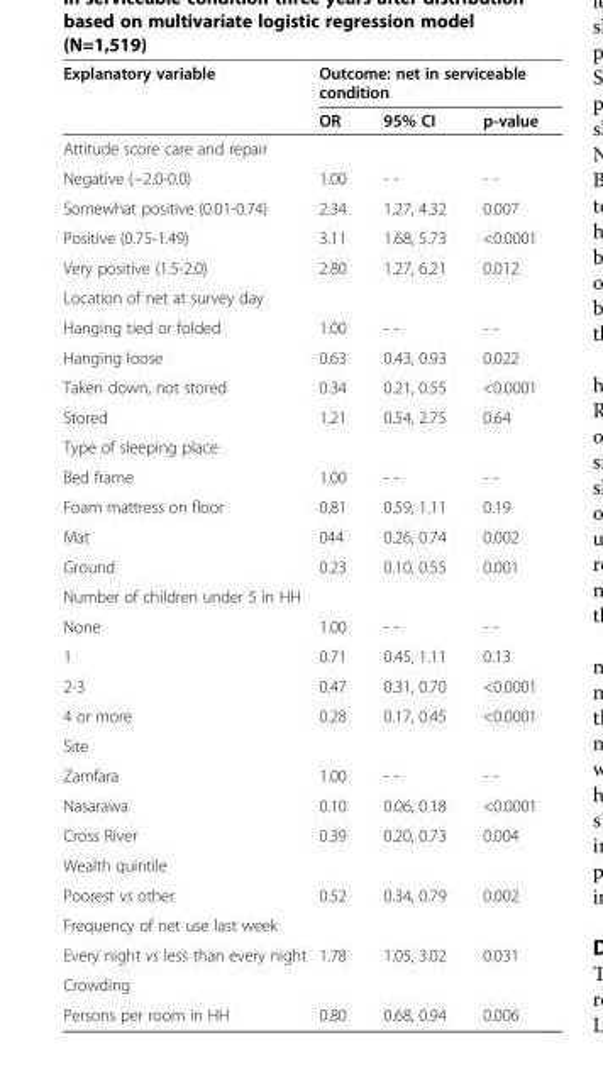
<table><thead><tr><td rowspan="2">Explanatory variable</td><td colspan="3">Outcome: net in serviceable condition</td></tr><tr><td>OR</td><td>95% CI</td><td>p-value</td></tr></thead><tbody><tr><td colspan="4">Attitude score care and repair</td></tr><tr><td>Negative (−2.0-0.0)</td><td>1.00</td><td>- -</td><td>- -</td></tr><tr><td>Somewhat positive (0.01-0.74)</td><td>2.34</td><td>1.27, 4.32</td><td>0.007</td></tr><tr><td>Positive (0.75-1.49)</td><td>3.11</td><td>1.68, 5.73</td><td>&lt;0.0001</td></tr><tr><td>Very positive (1.5-2.0)</td><td>2.80</td><td>1.27, 6.21</td><td>0.012</td></tr><tr><td colspan="4">Location of net at survey day</td></tr><tr><td>Hanging tied or folded</td><td>1.00</td><td>- -</td><td>- -</td></tr><tr><td>Hanging loose</td><td>0.63</td><td>0.43, 0.93</td><td>0.022</td></tr><tr><td>Taken down, not stored</td><td>0.34</td><td>0.21, 0.55</td><td>&lt;0.0001</td></tr><tr><td>Stored</td><td>1.21</td><td>0.54, 2.75</td><td>0.64</td></tr><tr><td colspan="4">Type of sleeping place</td></tr><tr><td>Bed frame</td><td>1.00</td><td>- -</td><td>- -</td></tr><tr><td>Foam mattress on floor</td><td>0.81</td><td>0.59, 1.11</td><td>0.19</td></tr><tr><td>Mat</td><td>044</td><td>0.26, 0.74</td><td>0.002</td></tr><tr><td>Ground</td><td>0.23</td><td>0.10, 0.55</td><td>0.001</td></tr><tr><td colspan="4">Number of children under 5 in HH</td></tr><tr><td>None</td><td>1.00</td><td>- -</td><td>- -</td></tr><tr><td>1</td><td>0.71</td><td>0.45, 1.11</td><td>0.13</td></tr><tr><td>2-3</td><td>0.47</td><td>0.31, 0.70</td><td>&lt;0.0001</td></tr><tr><td>4 or more</td><td>0.28</td><td>0.17, 0.45</td><td>&lt;0.0001</td></tr><tr><td colspan="4">Site</td></tr><tr><td>Zamfara</td><td>1.00</td><td>- -</td><td>- -</td></tr><tr><td>Nasarawa</td><td>0.10</td><td>0.06, 0.18</td><td>&lt;0.0001</td></tr><tr><td>Cross River</td><td>0.39</td><td>0.20, 0.73</td><td>0.004</td></tr><tr><td colspan="4">Wealth quintile</td></tr><tr><td>Poorest vs other</td><td>0.52</td><td>0.34, 0.79</td><td>0.002</td></tr><tr><td colspan="4">Frequency of net use last week</td></tr><tr><td>Every night vs less than every night</td><td>1.78</td><td>1.05, 3.02</td><td>0.031</td></tr><tr><td colspan="4">Crowding</td></tr><tr><td>Persons per room in HH</td><td>0.80</td><td>0.68, 0.94</td><td>0.006</td></tr></tbody></table>